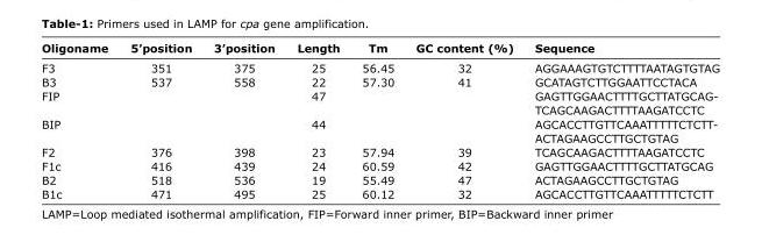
<table><thead><tr><td>Oligoname</td><td>5’position</td><td>3’position</td><td>Length</td><td>Tm</td><td>GC content (%)</td><td>Sequence</td></tr></thead><tbody><tr><td>F3</td><td>351</td><td>375</td><td>25</td><td>56.45</td><td>32</td><td>AGGAAAGTGTCTTTTAATAGTGTAG</td></tr><tr><td>B3</td><td>537</td><td>558</td><td>22</td><td>57.30</td><td>41</td><td>GCATAGTCTTGGAATTCCTACA</td></tr><tr><td rowspan="2">FIP</td><td></td><td></td><td>47</td><td></td><td></td><td>GAGTTGGAACTTTTGCTTATGCAG-</td></tr><tr><td></td><td></td><td></td><td></td><td></td><td>TCAGCAAGACTTTTAAGATCCTC</td></tr><tr><td rowspan="2">BIP</td><td></td><td></td><td>44</td><td></td><td></td><td>AGCACCTTGTTCAAATTTTTCTCTT-</td></tr><tr><td></td><td></td><td></td><td></td><td></td><td>ACTAGAAGCCTTGCTGTAG</td></tr><tr><td>F2</td><td>376</td><td>398</td><td>23</td><td>57.94</td><td>39</td><td>TCAGCAAGACTTTTAAGATCCTC</td></tr><tr><td>F1c</td><td>416</td><td>439</td><td>24</td><td>60.59</td><td>42</td><td>GAGTTGGAACTTTTGCTTATGCAG</td></tr><tr><td>B2</td><td>518</td><td>536</td><td>19</td><td>55.49</td><td>47</td><td>ACTAGAAGCCTTGCTGTAG</td></tr><tr><td>B1c</td><td>471</td><td>495</td><td>25</td><td>60.12</td><td>32</td><td>AGCACCTTGTTCAAATTTTTCTCTT</td></tr></tbody></table>